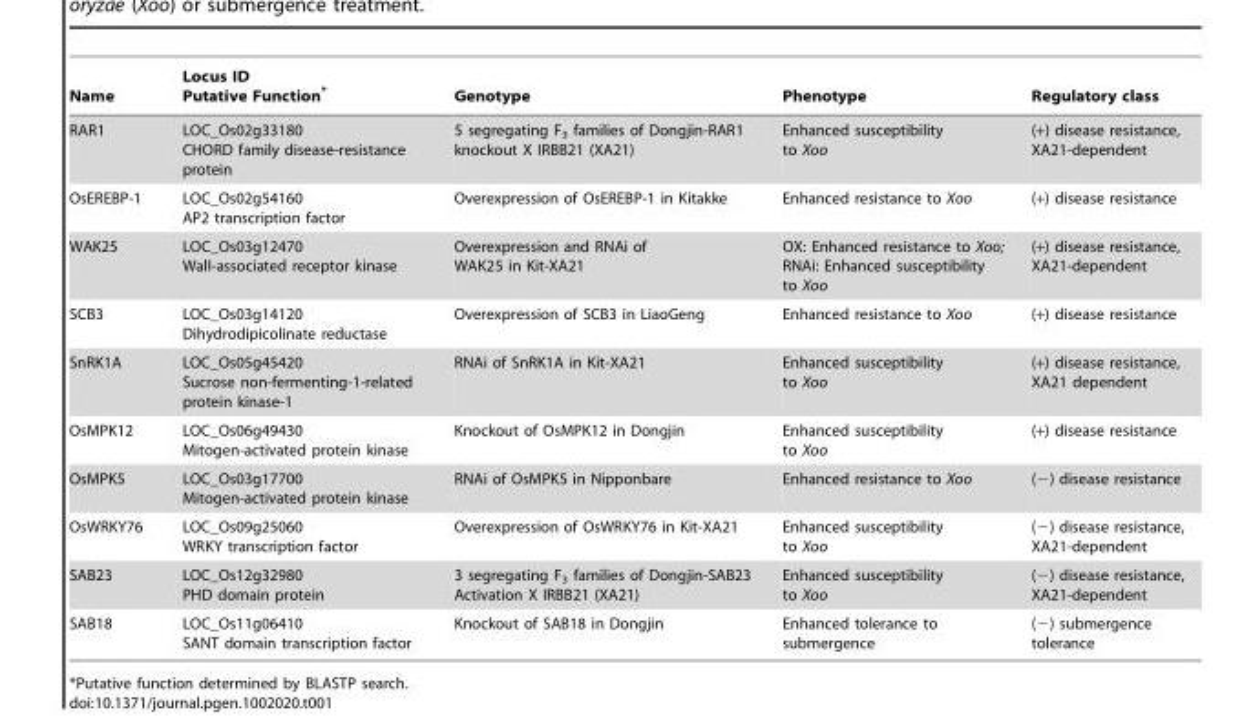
<table><thead><tr><td>Name</td><td>Locus ID Putative Function*</td><td>Genotype</td><td>Phenotype</td><td>Regulatory class</td></tr></thead><tbody><tr><td>RAR1</td><td>LOC_Os02g33180 CHORD family disease-resistance protein</td><td>5 segregating F<sub>3</sub> families of Dongjin-RAR1 knockout X IRBB21 (XA21)</td><td>Enhanced susceptibility to Xoo</td><td>(+) disease resistance, XA21-dependent</td></tr><tr><td>OsEREBP-1</td><td>LOC_Os02g54160 AP2 transcription factor</td><td>Overexpression of OsEREBP-1 in Kitakke</td><td>Enhanced resistance to Xoo</td><td>(+) disease resistance</td></tr><tr><td>WAK25</td><td>LOC_Os03g12470 Wall-associated receptor kinase</td><td>Overexpression and RNAi of WAK25 in Kit-XA21</td><td>OX: Enhanced resistance to Xoo; RNAi: Enhanced susceptibility to Xoo</td><td>(+) disease resistance, XA21-dependent</td></tr><tr><td>SCB3</td><td>LOC_Os03g14120 Dihydrodipicolinate reductase</td><td>Overexpression of SCB3 in LiaoGeng</td><td>Enhanced resistance to Xoo</td><td>(+) disease resistance</td></tr><tr><td>SnRK1A</td><td>LOC_Os05g45420 Sucrose non-fermenting-1-related protein kinase-1</td><td>RNAi of SnRK1A in Kit-XA21</td><td>Enhanced susceptibility to Xoo</td><td>(+) disease resistance, XA21 dependent</td></tr><tr><td>OsMPK12</td><td>LOC_Os06g49430 Mitogen-activated protein kinase</td><td>Knockout of OsMPK12 in Dongjin</td><td>Enhanced susceptibility to Xoo</td><td>(+) disease resistance</td></tr><tr><td>OsMPK5</td><td>LOC_Os03g17700 Mitogen-activated protein kinase</td><td>RNAi of OsMPK5 in Nipponbare</td><td>Enhanced resistance to Xoo</td><td>(−) disease resistance</td></tr><tr><td>OsWRKY76</td><td>LOC_Os09g25060 WRKY transcription factor</td><td>Overexpression of OsWRKY76 in Kit-XA21</td><td>Enhanced susceptibility to Xoo</td><td>(−) disease resistance, XA21-dependent</td></tr><tr><td>SAB23</td><td>LOC_Os12g32980 PHD domain protein</td><td>3 segregating F<sub>3</sub> families of Dongjin-SAB23 Activation X IRBB21 (XA21)</td><td>Enhanced susceptibility to Xoo</td><td>(−) disease resistance, XA21-dependent</td></tr><tr><td>SAB18</td><td>LOC_Os11g06410 SANT domain transcription factor</td><td>Knockout of SAB18 in Dongjin</td><td>Enhanced tolerance to submergence</td><td>(−) submergence tolerance</td></tr></tbody></table>